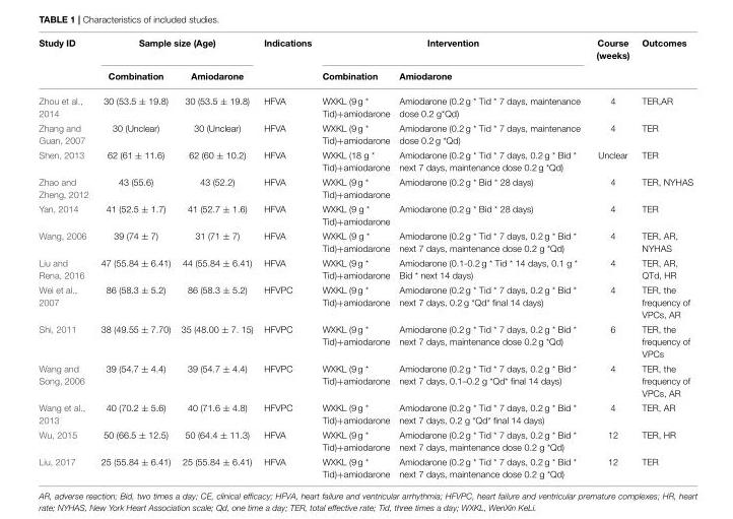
<table><thead><tr><td rowspan="2">Study ID</td><td colspan="2">Sample size (Age)</td><td rowspan="2">Indications</td><td colspan="2">Intervention</td><td rowspan="2">Course (weeks)</td><td rowspan="2">Outcomes</td></tr><tr><td>Combination</td><td>Amiodarone</td><td>Combination</td><td>Amiodarone</td></tr></thead><tbody><tr><td>Zhou et al., 2014</td><td>30 (53.5 ± 19.8)</td><td>30 (53.5 ± 19.8)</td><td>HFVA</td><td>WXKL (9 g * Tid)+amiodarone</td><td>Amiodarone (0.2 g * Tid * 7 days, maintenance dose 0.2 g*Qd)</td><td>4</td><td>TER,AR</td></tr><tr><td>Zhang and Guan, 2007</td><td>30 (Unclear)</td><td>30 (Unclear)</td><td>HFVA</td><td>WXKL (9 g * Tid)+amiodarone</td><td>Amiodarone (0.2 g * Tid * 7 days, maintenance dose 0.2 g *Qd)</td><td>4</td><td>TER</td></tr><tr><td>Shen, 2013</td><td>62 (61 ± 11.6)</td><td>62 (60 ± 10.2)</td><td>HFVA</td><td>WXKL (18 g * Tid)+amiodarone</td><td>Amiodarone (0.2 g * Tid * 7 days, 0.2 g * Bid * next 7 days, maintenance dose 0.2 g *Qd)</td><td>Unclear</td><td>TER</td></tr><tr><td>Zhao and Zheng, 2012</td><td>43 (55.6)</td><td>43 (52.2)</td><td>HFVA</td><td>WXKL (9 g * Tid)+amiodarone</td><td>Amiodarone (0.2 g * Bid * 28 days)</td><td>4</td><td>TER, NYHAS</td></tr><tr><td>Yan, 2014</td><td>41 (52.5 ± 1.7)</td><td>41 (52.7 ± 1.6)</td><td>HFVA</td><td>WXKL (9 g * Tid)+amiodarone</td><td>Amiodarone (0.2 g * Bid * 28 days)</td><td>4</td><td>TER</td></tr><tr><td>Wang, 2006</td><td>39 (74 ± 7)</td><td>31 (71 ± 7)</td><td>HFVA</td><td>WXKL (9 g * Tid)+amiodarone</td><td>Amiodarone (0.2 g * Tid * 7 days, 0.2 g * Bid * next 7 days, maintenance dose 0.2 g *Qd)</td><td>4</td><td>TER, AR, NYHAS</td></tr><tr><td>Liu and Rena, 2016</td><td>47 (55.84 ± 6.41)</td><td>44 (55.84 ± 6.41)</td><td>HFVA</td><td>WXKL (9 g * Tid)+amiodarone</td><td>Amiodarone (0.1-0.2 g * Tid * 14 days, 0.1 g * Bid * next 14 days)</td><td>4</td><td>TER, AR, QTd, HR</td></tr><tr><td>Wei et al., 2007</td><td>86 (58.3 ± 5.2)</td><td>86 (58.3 ± 5.2)</td><td>HFVPC</td><td>WXKL (9 g * Tid)+amiodarone</td><td>Amiodarone (0.2 g * Tid * 7 days, 0.2 g * Bid * next 7 days, 0.2 g *Qd* final 14 days)</td><td>4</td><td>TER, the frequency of VPCs, AR</td></tr><tr><td>Shi, 2011</td><td>38 (49.55 ± 7.70)</td><td>35 (48.00 ± 7. 15)</td><td>HFVPC</td><td>WXKL (9 g * Tid)+amiodarone</td><td>Amiodarone (0.2 g * Tid * 7 days, 0.2 g * Bid * next 7 days, maintenance dose 0.2 g *Qd)</td><td>6</td><td>TER, the frequency of VPCs</td></tr><tr><td>Wang and Song, 2006</td><td>39 (54.7 ± 4.4)</td><td>39 (54.7 ± 4.4)</td><td>HFVPC</td><td>WXKL (9 g * Tid)+amiodarone</td><td>Amiodarone (0.2 g * Tid * 7 days, 0.2 g * Bid * next 7 days, 0.1–0.2 g *Qd* final 14 days)</td><td>4</td><td>TER, the frequency of VPCs, AR</td></tr><tr><td>Wang et al., 2013</td><td>40 (70.2 ± 5.6)</td><td>40 (71.6 ± 4.8)</td><td>HFVPC</td><td>WXKL (9 g * Tid)+amiodarone</td><td>Amiodarone (0.2 g * Tid * 7 days, 0.2 g * Bid * next 7 days, 0.2 g *Qd* final 14 days)</td><td>4</td><td>TER, AR</td></tr><tr><td>Wu, 2015</td><td>50 (66.5 ± 12.5)</td><td>50 (64.4 ± 11.3)</td><td>HFVA</td><td>WXKL (9 g * Tid)+amiodarone</td><td>Amiodarone (0.2 g * Tid * 7 days, 0.2 g * Bid * next 7 days, maintenance dose 0.2 g *Qd)</td><td>12</td><td>TER, HR</td></tr><tr><td>Liu, 2017</td><td>25 (55.84 ± 6.41)</td><td>25 (55.84 ± 6.41)</td><td>HFVA</td><td>WXKL (9 g * Tid)+amiodarone</td><td>Amiodarone (0.2 g * Tid * 7 days, 0.2 g * Bid * next 7 days, maintenance dose 0.2 g *Qd)</td><td>12</td><td>TER</td></tr></tbody></table>